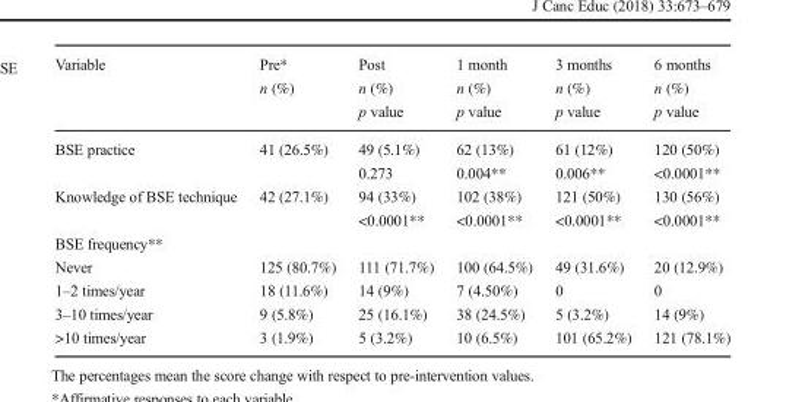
<table><thead><tr><td>Variable</td><td>Pre* n (%)</td><td>Post n (%) p value</td><td>1 month n (%) p value</td><td>3 months n (%) p value</td><td>6 months n (%) p value</td></tr></thead><tbody><tr><td>BSE practice</td><td>41 (26.5%)</td><td>49 (5.1%) 0.273</td><td>62 (13%) 0.004**</td><td>61 (12%) 0.006**</td><td>120 (50%) &lt;0.0001**</td></tr><tr><td>Knowledge of BSE technique</td><td>42 (27.1%)</td><td>94 (33%) &lt;0.0001**</td><td>102 (38%) &lt;0.0001**</td><td>121 (50%) &lt;0.0001**</td><td>130 (56%) &lt;0.0001**</td></tr><tr><td colspan="6">BSE frequency**</td></tr><tr><td>Never</td><td>125 (80.7%)</td><td>111 (71.7%)</td><td>100 (64.5%)</td><td>49 (31.6%)</td><td>20 (12.9%)</td></tr><tr><td>1–2 times/year</td><td>18 (11.6%)</td><td>14 (9%)</td><td>7 (4.50%)</td><td>0</td><td>0</td></tr><tr><td>3–10 times/year</td><td>9 (5.8%)</td><td>25 (16.1%)</td><td>38 (24.5%)</td><td>5 (3.2%)</td><td>14 (9%)</td></tr><tr><td>&gt;10 times/year</td><td>3 (1.9%)</td><td>5 (3.2%)</td><td>10 (6.5%)</td><td>101 (65.2%)</td><td>121 (78.1%)</td></tr></tbody></table>